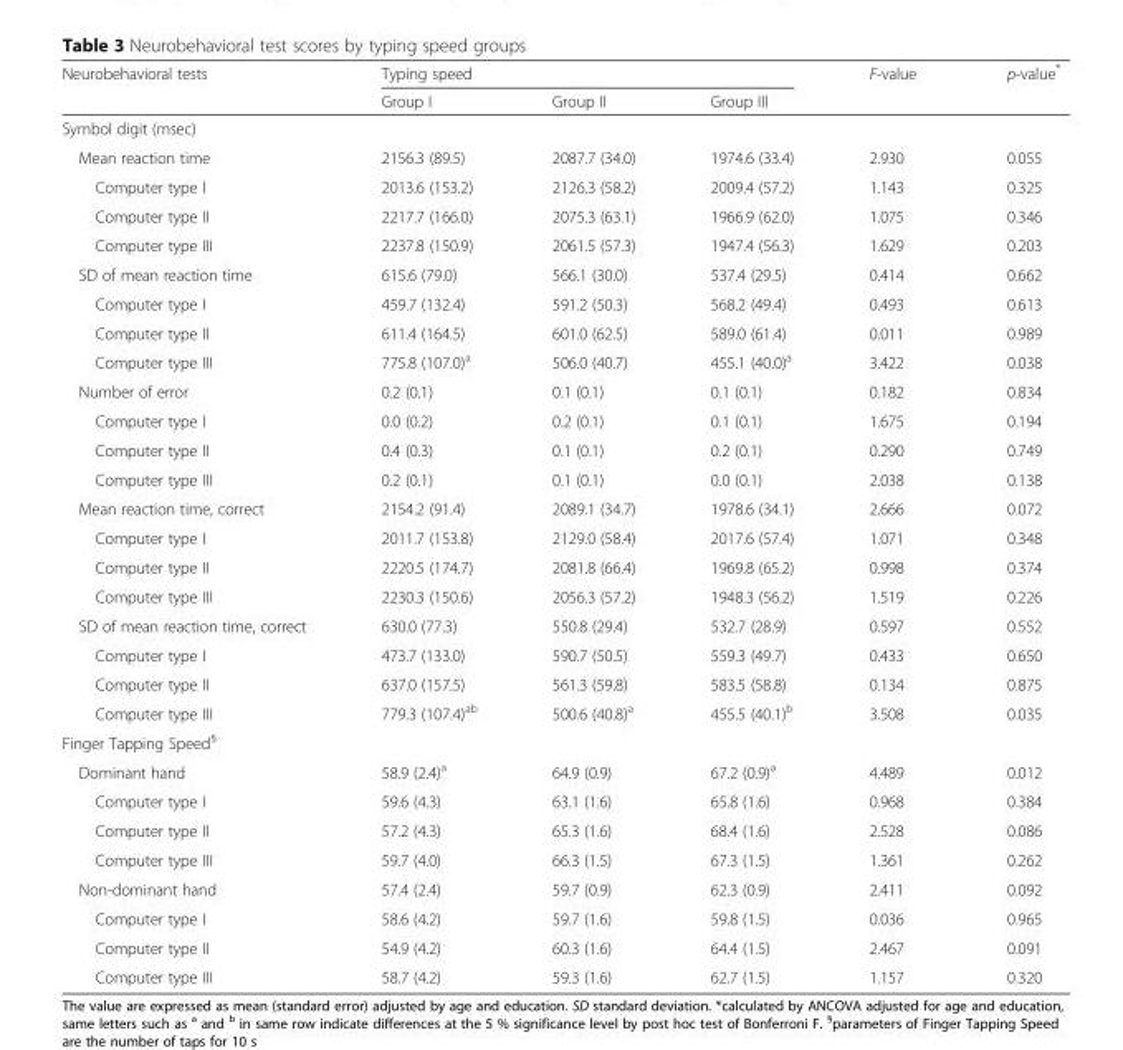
<table><thead><tr><td rowspan="2">Neurobehavioral tests</td><td colspan="3">Typing speed</td><td rowspan="2">F-value</td><td rowspan="2">p-value*</td></tr><tr><td>Group I</td><td>Group II</td><td>Group III</td></tr></thead><tbody><tr><td colspan="6">Symbol digit (msec)</td></tr><tr><td>Mean reaction time</td><td>2156.3 (89.5)</td><td>2087.7 (34.0)</td><td>1974.6 (33.4)</td><td>2.930</td><td>0.055</td></tr><tr><td>Computer type I</td><td>2013.6 (153.2)</td><td>2126.3 (58.2)</td><td>2009.4 (57.2)</td><td>1.143</td><td>0.325</td></tr><tr><td>Computer type II</td><td>2217.7 (166.0)</td><td>2075.3 (63.1)</td><td>1966.9 (62.0)</td><td>1.075</td><td>0.346</td></tr><tr><td>Computer type III</td><td>2237.8 (150.9)</td><td>2061.5 (57.3)</td><td>1947.4 (56.3)</td><td>1.629</td><td>0.203</td></tr><tr><td>SD of mean reaction time</td><td>615.6 (79.0)</td><td>566.1 (30.0)</td><td>537.4 (29.5)</td><td>0.414</td><td>0.662</td></tr><tr><td>Computer type I</td><td>459.7 (132.4)</td><td>591.2 (50.3)</td><td>568.2 (49.4)</td><td>0.493</td><td>0.613</td></tr><tr><td>Computer type II</td><td>611.4 (164.5)</td><td>601.0 (62.5)</td><td>589.0 (61.4)</td><td>0.011</td><td>0.989</td></tr><tr><td>Computer type III</td><td>775.8 (107.0)<sup>a</sup></td><td>506.0 (40.7)</td><td>455.1 (40.0)<sup>a</sup></td><td>3.422</td><td>0.038</td></tr><tr><td>Number of error</td><td>0.2 (0.1)</td><td>0.1 (0.1)</td><td>0.1 (0.1)</td><td>0.182</td><td>0.834</td></tr><tr><td>Computer type I</td><td>0.0 (0.2)</td><td>0.2 (0.1)</td><td>0.1 (0.1)</td><td>1.675</td><td>0.194</td></tr><tr><td>Computer type II</td><td>0.4 (0.3)</td><td>0.1 (0.1)</td><td>0.2 (0.1)</td><td>0.290</td><td>0.749</td></tr><tr><td>Computer type III</td><td>0.2 (0.1)</td><td>0.1 (0.1)</td><td>0.0 (0.1)</td><td>2.038</td><td>0.138</td></tr><tr><td>Mean reaction time, correct</td><td>2154.2 (91.4)</td><td>2089.1 (34.7)</td><td>1978.6 (34.1)</td><td>2.666</td><td>0.072</td></tr><tr><td>Computer type I</td><td>2011.7 (153.8)</td><td>2129.0 (58.4)</td><td>2017.6 (57.4)</td><td>1.071</td><td>0.348</td></tr><tr><td>Computer type II</td><td>2220.5 (174.7)</td><td>2081.8 (66.4)</td><td>1969.8 (65.2)</td><td>0.998</td><td>0.374</td></tr><tr><td>Computer type III</td><td>2230.3 (150.6)</td><td>2056.3 (57.2)</td><td>1948.3 (56.2)</td><td>1.519</td><td>0.226</td></tr><tr><td>SD of mean reaction time, correct</td><td>630.0 (77.3)</td><td>550.8 (29.4)</td><td>532.7 (28.9)</td><td>0.597</td><td>0.552</td></tr><tr><td>Computer type I</td><td>473.7 (133.0)</td><td>590.7 (50.5)</td><td>559.3 (49.7)</td><td>0.433</td><td>0.650</td></tr><tr><td>Computer type II</td><td>637.0 (157.5)</td><td>561.3 (59.8)</td><td>583.5 (58.8)</td><td>0.134</td><td>0.875</td></tr><tr><td>Computer type III</td><td>779.3 (107.4)<sup>ab</sup></td><td>500.6 (40.8)<sup>a</sup></td><td>455.5 (40.1)<sup>b</sup></td><td>3.508</td><td>0.035</td></tr><tr><td colspan="6">Finger Tapping Speed<sup>§</sup></td></tr><tr><td>Dominant hand</td><td>58.9 (2.4)<sup>a</sup></td><td>64.9 (0.9)</td><td>67.2 (0.9)<sup>a</sup></td><td>4.489</td><td>0.012</td></tr><tr><td>Computer type I</td><td>59.6 (4.3)</td><td>63.1 (1.6)</td><td>65.8 (1.6)</td><td>0.968</td><td>0.384</td></tr><tr><td>Computer type II</td><td>57.2 (4.3)</td><td>65.3 (1.6)</td><td>68.4 (1.6)</td><td>2.528</td><td>0.086</td></tr><tr><td>Computer type III</td><td>59.7 (4.0)</td><td>66.3 (1.5)</td><td>67.3 (1.5)</td><td>1.361</td><td>0.262</td></tr><tr><td>Non-dominant hand</td><td>57.4 (2.4)</td><td>59.7 (0.9)</td><td>62.3 (0.9)</td><td>2.411</td><td>0.092</td></tr><tr><td>Computer type I</td><td>58.6 (4.2)</td><td>59.7 (1.6)</td><td>59.8 (1.5)</td><td>0.036</td><td>0.965</td></tr><tr><td>Computer type II</td><td>54.9 (4.2)</td><td>60.3 (1.6)</td><td>64.4 (1.5)</td><td>2.467</td><td>0.091</td></tr><tr><td>Computer type III</td><td>58.7 (4.2)</td><td>59.3 (1.6)</td><td>62.7 (1.5)</td><td>1.157</td><td>0.320</td></tr></tbody></table>